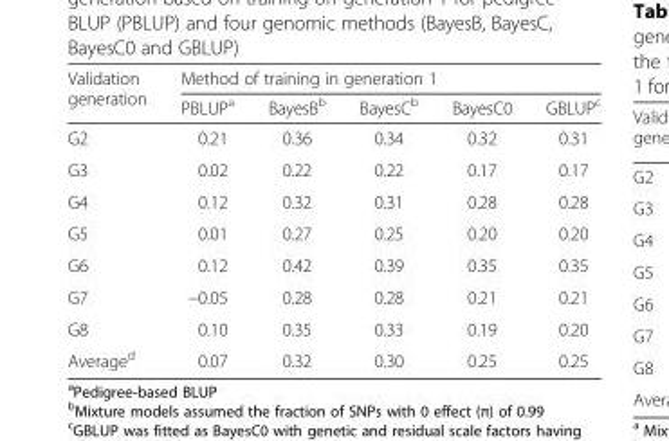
<table><thead><tr><td rowspan="2">Validation generation</td><td colspan="5">Method of training in generation 1</td></tr><tr><td>PBLUP<sup>a</sup></td><td>BayesB<sup>b</sup></td><td>BayesC<sup>b</sup></td><td>BayesC0</td><td>GBLUP<sup>c</sup></td></tr></thead><tbody><tr><td>G2</td><td>0.21</td><td>0.36</td><td>0.34</td><td>0.32</td><td>0.31</td></tr><tr><td>G3</td><td>0.02</td><td>0.22</td><td>0.22</td><td>0.17</td><td>0.17</td></tr><tr><td>G4</td><td>0.12</td><td>0.32</td><td>0.31</td><td>0.28</td><td>0.28</td></tr><tr><td>G5</td><td>0.01</td><td>0.27</td><td>0.25</td><td>0.20</td><td>0.20</td></tr><tr><td>G6</td><td>0.12</td><td>0.42</td><td>0.39</td><td>0.35</td><td>0.35</td></tr><tr><td>G7</td><td>−0.05</td><td>0.28</td><td>0.28</td><td>0.21</td><td>0.21</td></tr><tr><td>G8</td><td>0.10</td><td>0.35</td><td>0.33</td><td>0.19</td><td>0.20</td></tr><tr><td>Average<sup>d</sup></td><td>0.07</td><td>0.32</td><td>0.30</td><td>0.25</td><td>0.25</td></tr></tbody></table>